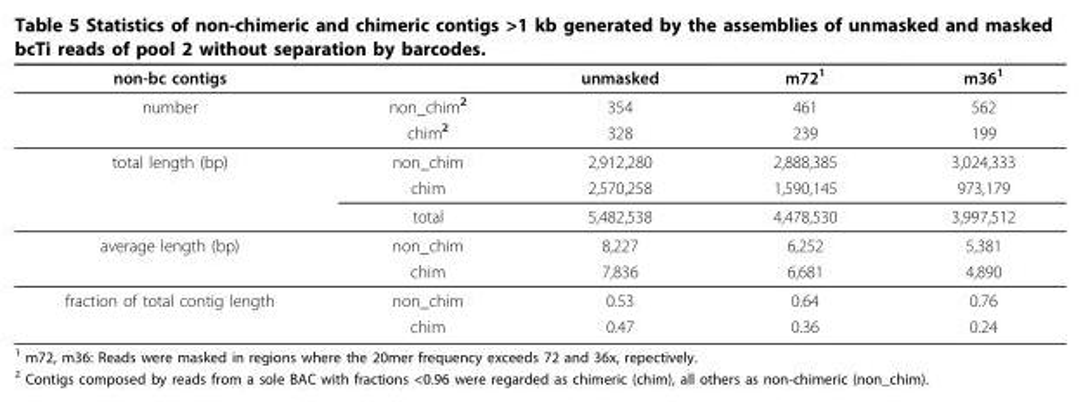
<table><thead><tr><td>non-bc contigs</td><td></td><td>unmasked</td><td>m72<sup>1</sup></td><td>m36<sup>1</sup></td></tr></thead><tbody><tr><td rowspan="2">number</td><td>non_chim<sup>2</sup></td><td>354</td><td>461</td><td>562</td></tr><tr><td>chim<sup>2</sup></td><td>328</td><td>239</td><td>199</td></tr><tr><td rowspan="3">total length (bp)</td><td>non_chim</td><td>2,912,280</td><td>2,888,385</td><td>3,024,333</td></tr><tr><td>chim</td><td>2,570,258</td><td>1,590,145</td><td>973,179</td></tr><tr><td>total</td><td>5,482,538</td><td>4,478,530</td><td>3,997,512</td></tr><tr><td rowspan="2">average length (bp)</td><td>non_chim</td><td>8,227</td><td>6,252</td><td>5,381</td></tr><tr><td>chim</td><td>7,836</td><td>6,681</td><td>4,890</td></tr><tr><td rowspan="2">fraction of total contig length</td><td>non_chim</td><td>0.53</td><td>0.64</td><td>0.76</td></tr><tr><td>chim</td><td>0.47</td><td>0.36</td><td>0.24</td></tr></tbody></table>